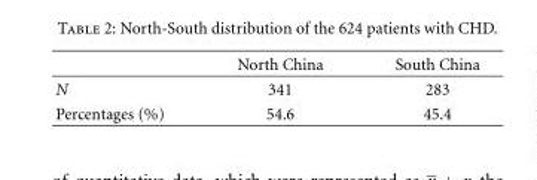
<table><thead><tr><td></td><td>North China</td><td>South China</td></tr></thead><tbody><tr><td>N</td><td>341</td><td>283</td></tr><tr><td>Percentages (%)</td><td>54.6</td><td>45.4</td></tr></tbody></table>